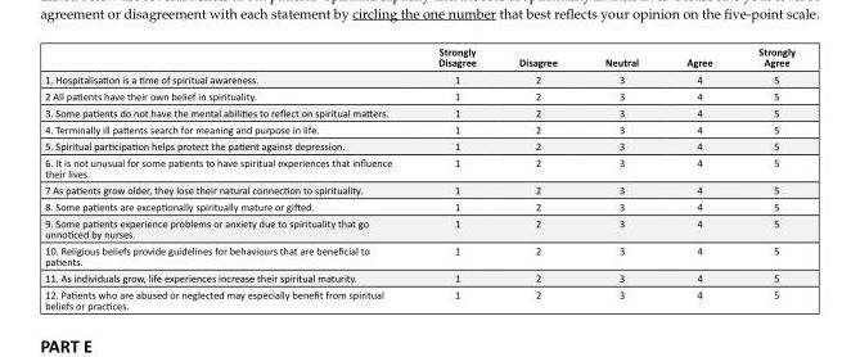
<table><thead><tr><td></td><td>Strongly Disagree</td><td>Disagree</td><td>Neutral</td><td>Agree</td><td>Strongly Agree</td></tr></thead><tbody><tr><td>1. Hospitalisation is a time of spiritual awareness.</td><td>1</td><td>2</td><td>3</td><td>4</td><td>5</td></tr><tr><td>2 All patients have their own belief in spirituality.</td><td>1</td><td>2</td><td>3</td><td>4</td><td>5</td></tr><tr><td>3. Some patients do not have the mental abilities to reflect on spiritual matters.</td><td>1</td><td>2</td><td>3</td><td>4</td><td>5</td></tr><tr><td>4. Terminally ill patients search for meaning and purpose in life.</td><td>1</td><td>2</td><td>3</td><td>4</td><td>5</td></tr><tr><td>5. Spiritual participation helps protect the patient against depression.</td><td>1</td><td>2</td><td>3</td><td>4</td><td>5</td></tr><tr><td>6. It is not unusual for some patients to have spiritual experiences that influence their lives.</td><td>1</td><td>2</td><td>3</td><td>4</td><td>5</td></tr><tr><td>7 As patients grow older, they lose their natural connection to spirituality.</td><td>1</td><td>2</td><td>3</td><td>4</td><td>5</td></tr><tr><td>8. Some patients are exceptionally spiritually mature or gifted.</td><td>1</td><td>2</td><td>3</td><td>4</td><td>5</td></tr><tr><td>9. Some patients experience problems or anxiety due to spirituality that go unnoticed by nurses.</td><td>1</td><td>2</td><td>3</td><td>4</td><td>5</td></tr><tr><td>10. Religious beliefs provide guidelines for behaviours that are beneficial to patients.</td><td>1</td><td>2</td><td>3</td><td>4</td><td>5</td></tr><tr><td>11. As individuals grow, life experiences increase their spiritual maturity.</td><td>1</td><td>2</td><td>3</td><td>4</td><td>5</td></tr><tr><td>12. Patients who are abused or neglected may especially benefit from spiritual beliefs or practices.</td><td>1</td><td>2</td><td>3</td><td>4</td><td>5</td></tr></tbody></table>